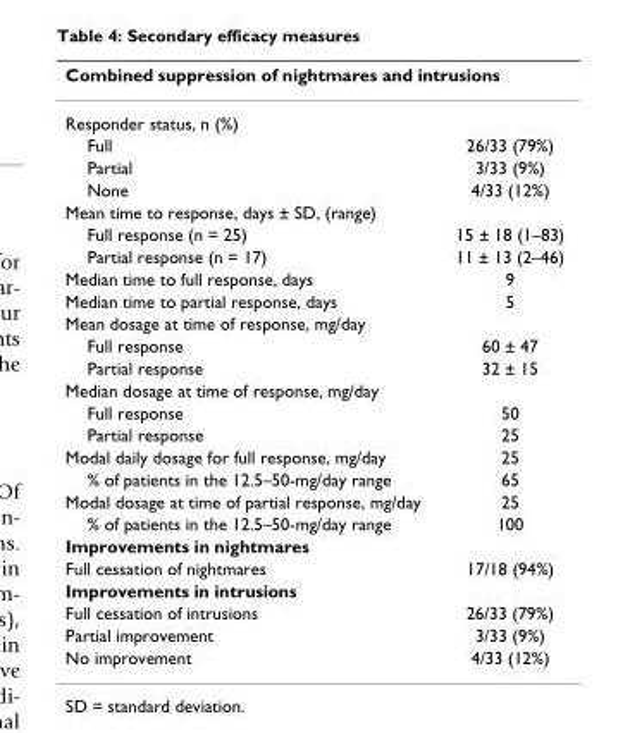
<table><thead><tr><td colspan="2">Combined suppression of nightmares and intrusions</td></tr><tr><td>Responder status, n (%)</td><td></td></tr></thead><tbody><tr><td>Full</td><td>26/33 (79%)</td></tr><tr><td>Partial</td><td>3/33 (9%)</td></tr><tr><td>None</td><td>4/33 (12%)</td></tr><tr><td colspan="2">Mean time to response, days ± SD, (range)</td></tr><tr><td>Full response (n = 25)</td><td>15 ± 18 (1–83)</td></tr><tr><td>Partial response (n = 17)</td><td>11 ± 13 (2–46)</td></tr><tr><td>Median time to full response, days</td><td>9</td></tr><tr><td>Median time to partial response, days</td><td>5</td></tr><tr><td colspan="2">Mean dosage at time of response, mg/day</td></tr><tr><td>Full response</td><td>60 ± 47</td></tr><tr><td>Partial response</td><td>32 ± 15</td></tr><tr><td colspan="2">Median dosage at time of response, mg/day</td></tr><tr><td>Full response</td><td>50</td></tr><tr><td>Partial response</td><td>25</td></tr><tr><td>Modal daily dosage for full response, mg/day</td><td>25</td></tr><tr><td>% of patients in the 12.5–50-mg/day range</td><td>65</td></tr><tr><td>Modal dosage at time of partial response, mg/day</td><td>25</td></tr><tr><td>% of patients in the 12.5–50-mg/day range</td><td>100</td></tr><tr><td colspan="2">Improvements in nightmares</td></tr><tr><td>Full cessation of nightmares</td><td>17/18 (94%)</td></tr><tr><td colspan="2">Improvements in intrusions</td></tr><tr><td>Full cessation of intrusions</td><td>26/33 (79%)</td></tr><tr><td>Partial improvement</td><td>3/33 (9%)</td></tr><tr><td>No improvement</td><td>4/33 (12%)</td></tr></tbody></table>